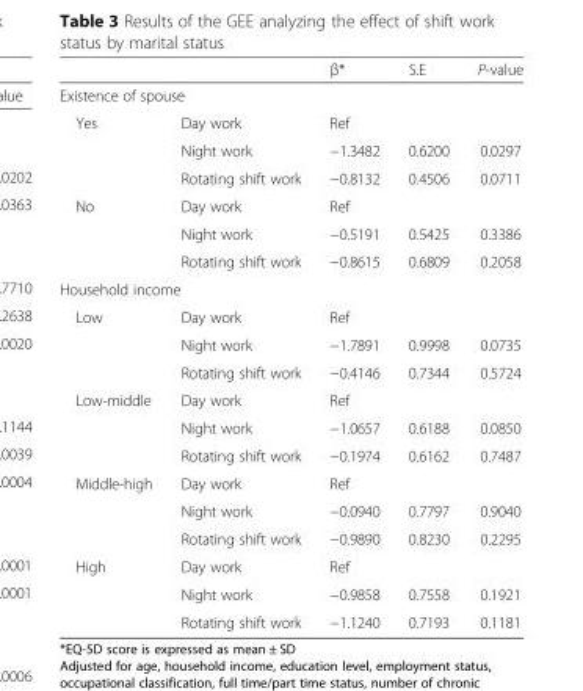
<table><thead><tr><td></td><td></td><td>β*</td><td>S.E</td><td>P-value</td></tr></thead><tbody><tr><td colspan="5">Existence of spouse</td></tr><tr><td rowspan="3">Yes</td><td>Day work</td><td>Ref</td><td></td><td></td></tr><tr><td>Night work</td><td>−1.3482</td><td>0.6200</td><td>0.0297</td></tr><tr><td>Rotating shift work</td><td>−0.8132</td><td>0.4506</td><td>0.0711</td></tr><tr><td rowspan="3">No</td><td>Day work</td><td>Ref</td><td></td><td></td></tr><tr><td>Night work</td><td>−0.5191</td><td>0.5425</td><td>0.3386</td></tr><tr><td>Rotating shift work</td><td>−0.8615</td><td>0.6809</td><td>0.2058</td></tr><tr><td colspan="5">Household income</td></tr><tr><td rowspan="3">Low</td><td>Day work</td><td>Ref</td><td></td><td></td></tr><tr><td>Night work</td><td>−1.7891</td><td>0.9998</td><td>0.0735</td></tr><tr><td>Rotating shift work</td><td>−0.4146</td><td>0.7344</td><td>0.5724</td></tr><tr><td rowspan="3">Low-middle</td><td>Day work</td><td>Ref</td><td></td><td></td></tr><tr><td>Night work</td><td>−1.0657</td><td>0.6188</td><td>0.0850</td></tr><tr><td>Rotating shift work</td><td>−0.1974</td><td>0.6162</td><td>0.7487</td></tr><tr><td rowspan="3">Middle-high</td><td>Day work</td><td>Ref</td><td></td><td></td></tr><tr><td>Night work</td><td>−0.0940</td><td>0.7797</td><td>0.9040</td></tr><tr><td>Rotating shift work</td><td>−0.9890</td><td>0.8230</td><td>0.2295</td></tr><tr><td rowspan="3">High</td><td>Day work</td><td>Ref</td><td></td><td></td></tr><tr><td>Night work</td><td>−0.9858</td><td>0.7558</td><td>0.1921</td></tr><tr><td>Rotating shift work</td><td>−1.1240</td><td>0.7193</td><td>0.1181</td></tr></tbody></table>